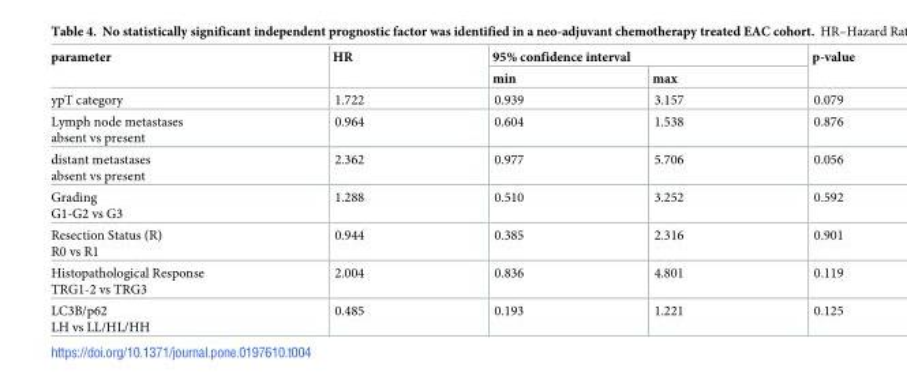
<table><thead><tr><td rowspan="2">parameter</td><td rowspan="2">HR</td><td colspan="2">95% confidence interval</td><td rowspan="2">p-value</td></tr><tr><td>min</td><td>max</td></tr></thead><tbody><tr><td>ypT category</td><td>1.722</td><td>0.939</td><td>3.157</td><td>0.079</td></tr><tr><td>Lymph node metastases absent vs present</td><td>0.964</td><td>0.604</td><td>1.538</td><td>0.876</td></tr><tr><td>distant metastases absent vs present</td><td>2.362</td><td>0.977</td><td>5.706</td><td>0.056</td></tr><tr><td>Grading G1-G2 vs G3</td><td>1.288</td><td>0.510</td><td>3.252</td><td>0.592</td></tr><tr><td>Resection Status (R) R0 vs R1</td><td>0.944</td><td>0.385</td><td>2.316</td><td>0.901</td></tr><tr><td>Histopathological Response TRG1-2 vs TRG3</td><td>2.004</td><td>0.836</td><td>4.801</td><td>0.119</td></tr><tr><td>LC3B/p62 LH vs LL/HL/HH</td><td>0.485</td><td>0.193</td><td>1.221</td><td>0.125</td></tr></tbody></table>